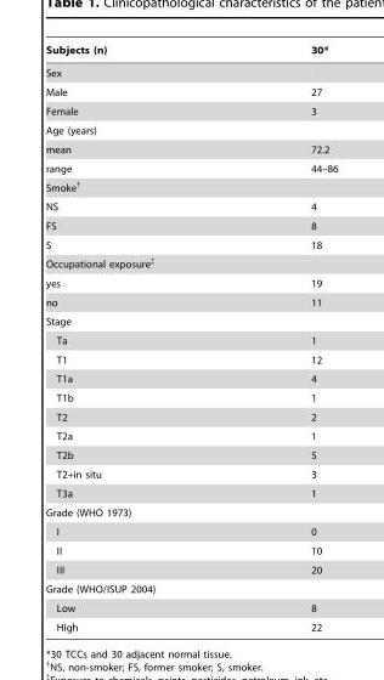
<table><thead><tr><td>Subjects (n)</td><td>30*</td></tr></thead><tbody><tr><td colspan="2">Sex</td></tr><tr><td>Male</td><td>27</td></tr><tr><td>Female</td><td>3</td></tr><tr><td colspan="2">Age (years)</td></tr><tr><td>mean</td><td>72.2</td></tr><tr><td>range</td><td>44–86</td></tr><tr><td colspan="2">Smoke†</td></tr><tr><td>NS</td><td>4</td></tr><tr><td>FS</td><td>8</td></tr><tr><td>S</td><td>18</td></tr><tr><td colspan="2">Occupational exposure‡</td></tr><tr><td>yes</td><td>19</td></tr><tr><td>no</td><td>11</td></tr><tr><td colspan="2">Stage</td></tr><tr><td>Ta</td><td>1</td></tr><tr><td>T1</td><td>12</td></tr><tr><td>T1a</td><td>4</td></tr><tr><td>T1b</td><td>1</td></tr><tr><td>T2</td><td>2</td></tr><tr><td>T2a</td><td>1</td></tr><tr><td>T2b</td><td>5</td></tr><tr><td>T2+in situ</td><td>3</td></tr><tr><td>T3a</td><td>1</td></tr><tr><td colspan="2">Grade (WHO 1973)</td></tr><tr><td>I</td><td>0</td></tr><tr><td>II</td><td>10</td></tr><tr><td>III</td><td>20</td></tr><tr><td colspan="2">Grade (WHO/ISUP 2004)</td></tr><tr><td>Low</td><td>8</td></tr><tr><td>High</td><td>22</td></tr></tbody></table>